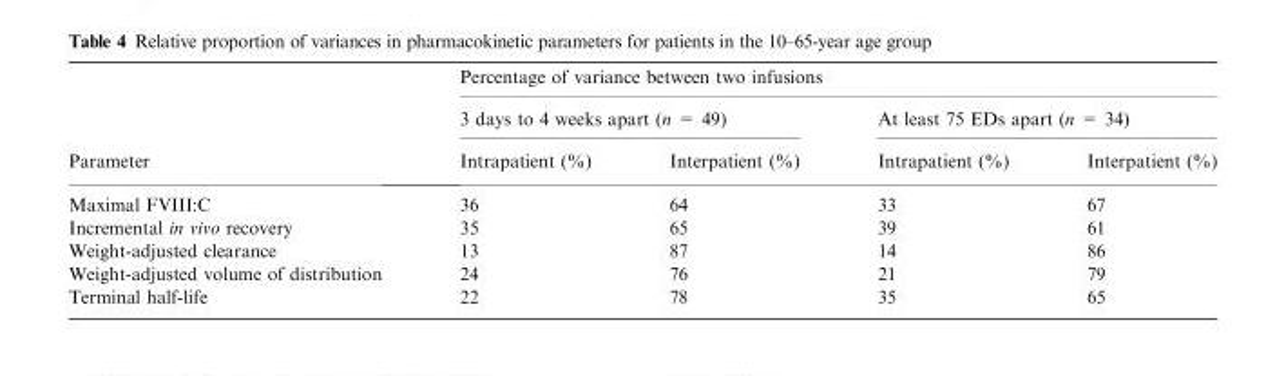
<table><thead><tr><td rowspan="3">Parameter</td><td colspan="4">Percentage of variance between two infusions</td></tr><tr><td colspan="2">3 days to 4 weeks apart (n = 49)</td><td colspan="2">At least 75 EDs apart (n = 34)</td></tr><tr><td>Intrapatient (%)</td><td>Interpatient (%)</td><td>Intrapatient (%)</td><td>Interpatient (%)</td></tr></thead><tbody><tr><td>Maximal FVIII:C</td><td>36</td><td>64</td><td>33</td><td>67</td></tr><tr><td>Incremental in vivo recovery</td><td>35</td><td>65</td><td>39</td><td>61</td></tr><tr><td>Weight-adjusted clearance</td><td>13</td><td>87</td><td>14</td><td>86</td></tr><tr><td>Weight-adjusted volume of distribution</td><td>24</td><td>76</td><td>21</td><td>79</td></tr><tr><td>Terminal half-life</td><td>22</td><td>78</td><td>35</td><td>65</td></tr></tbody></table>